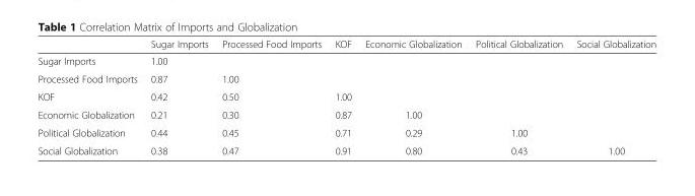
<table><thead><tr><td></td><td>Sugar Imports</td><td>Processed Food Imports</td><td>KOF</td><td>Economic Globalization</td><td>Political Globalization</td><td>Social Globalization</td></tr></thead><tbody><tr><td>Sugar Imports</td><td>1.00</td><td></td><td></td><td></td><td></td><td></td></tr><tr><td>Processed Food Imports</td><td>0.87</td><td>1.00</td><td></td><td></td><td></td><td></td></tr><tr><td>KOF</td><td>0.42</td><td>0.50</td><td>1.00</td><td></td><td></td><td></td></tr><tr><td>Economic Globalization</td><td>0.21</td><td>0.30</td><td>0.87</td><td>1.00</td><td></td><td></td></tr><tr><td>Political Globalization</td><td>0.44</td><td>0.45</td><td>0.71</td><td>0.29</td><td>1.00</td><td></td></tr><tr><td>Social Globalization</td><td>0.38</td><td>0.47</td><td>0.91</td><td>0.80</td><td>0.43</td><td>1.00</td></tr></tbody></table>